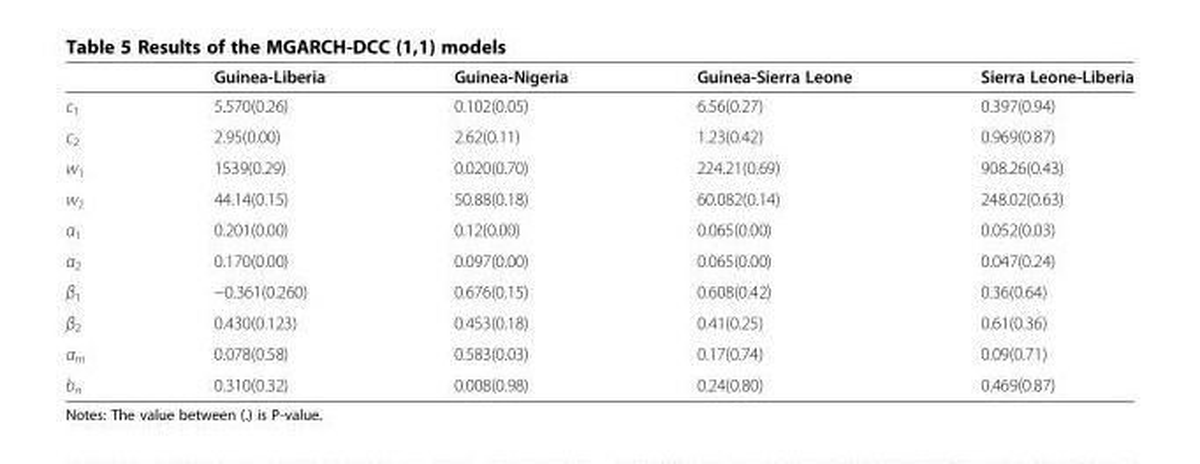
<table><thead><tr><td></td><td>Guinea-Liberia</td><td>Guinea-Nigeria</td><td>Guinea-Sierra Leone</td><td>Sierra Leone-Liberia</td></tr></thead><tbody><tr><td>c<sub>1</sub></td><td>5.570(0.26)</td><td>0.102(0.05)</td><td>6.56(0.27)</td><td>0.397(0.94)</td></tr><tr><td>c<sub>2</sub></td><td>2.95(0.00)</td><td>2.62(0.11)</td><td>1.23(0.42)</td><td>0.969(0.87)</td></tr><tr><td>w<sub>1</sub></td><td>1539(0.29)</td><td>0.020(0.70)</td><td>224.21(0.69)</td><td>908.26(0.43)</td></tr><tr><td>w<sub>2</sub></td><td>44.14(0.15)</td><td>50.88(0.18)</td><td>60.082(0.14)</td><td>248.02(0.63)</td></tr><tr><td>α<sub>1</sub></td><td>0.201(0.00)</td><td>0.12(0.00)</td><td>0.065(0.00)</td><td>0.052(0.03)</td></tr><tr><td>α<sub>2</sub></td><td>0.170(0.00)</td><td>0.097(0.00)</td><td>0.065(0.00)</td><td>0.047(0.24)</td></tr><tr><td>β<sub>1</sub></td><td>−0.361(0.260)</td><td>0.676(0.15)</td><td>0.608(0.42)</td><td>0.36(0.64)</td></tr><tr><td>β<sub>2</sub></td><td>0.430(0.123)</td><td>0.453(0.18)</td><td>0.41(0.25)</td><td>0.61(0.36)</td></tr><tr><td>α<sub>m</sub></td><td>0.078(0.58)</td><td>0.583(0.03)</td><td>0.17(0.74)</td><td>0.09(0.71)</td></tr><tr><td>b<sub>n</sub></td><td>0.310(0.32)</td><td>0.008(0.98)</td><td>0.24(0.80)</td><td>0.469(0.87)</td></tr></tbody></table>